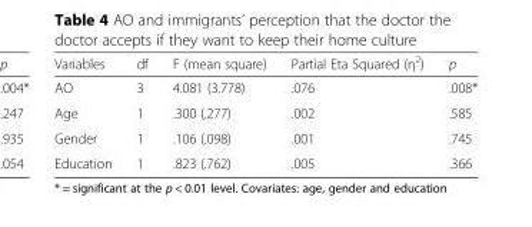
<table><thead><tr><td>Variables</td><td>df</td><td>F (mean square)</td><td>Partial Eta Squared (η<sup>2</sup>)</td><td>p</td></tr></thead><tbody><tr><td>AO</td><td>3</td><td>4.081 (3.778)</td><td>.076</td><td>.008*</td></tr><tr><td>Age</td><td>1</td><td>.300 (.277)</td><td>.002</td><td>.585</td></tr><tr><td>Gender</td><td>1</td><td>.106 (.098)</td><td>.001</td><td>.745</td></tr><tr><td>Education</td><td>1</td><td>.823 (.762)</td><td>.005</td><td>.366</td></tr></tbody></table>